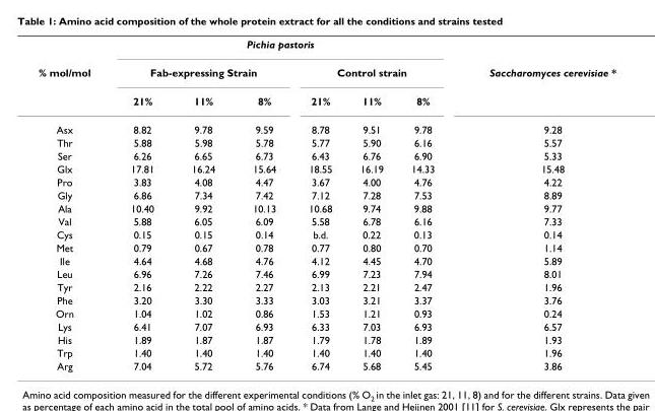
<table><thead><tr><td rowspan="3">% mol/mol</td><td colspan="6">Pichia pastoris</td><td rowspan="3">Saccharomyces cerevisiae *</td></tr><tr><td colspan="3">Fab-expressing Strain</td><td colspan="3">Control strain</td></tr><tr><td>21%</td><td>11%</td><td>8%</td><td>21%</td><td>11%</td><td>8%</td></tr></thead><tbody><tr><td>Asx</td><td>8.82</td><td>9.78</td><td>9.59</td><td>8.78</td><td>9.51</td><td>9.78</td><td>9.28</td></tr><tr><td>Thr</td><td>5.88</td><td>5.98</td><td>5.78</td><td>5.77</td><td>5.90</td><td>6.16</td><td>5.57</td></tr><tr><td>Ser</td><td>6.26</td><td>6.65</td><td>6.73</td><td>6.43</td><td>6.76</td><td>6.90</td><td>5.33</td></tr><tr><td>Glx</td><td>17.81</td><td>16.24</td><td>15.64</td><td>18.55</td><td>16.19</td><td>14.33</td><td>15.48</td></tr><tr><td>Pro</td><td>3.83</td><td>4.08</td><td>4.47</td><td>3.67</td><td>4.00</td><td>4.76</td><td>4.22</td></tr><tr><td>Gly</td><td>6.86</td><td>7.34</td><td>7.42</td><td>7.12</td><td>7.28</td><td>7.53</td><td>8.89</td></tr><tr><td>Ala</td><td>10.40</td><td>9.92</td><td>10.13</td><td>10.68</td><td>9.74</td><td>9.88</td><td>9.77</td></tr><tr><td>Val</td><td>5.88</td><td>6.05</td><td>6.09</td><td>5.58</td><td>6.78</td><td>6.16</td><td>7.33</td></tr><tr><td>Cys</td><td>0.15</td><td>0.15</td><td>0.14</td><td>b.d.</td><td>0.22</td><td>0.13</td><td>0.14</td></tr><tr><td>Met</td><td>0.79</td><td>0.67</td><td>0.78</td><td>0.77</td><td>0.80</td><td>0.70</td><td>1.14</td></tr><tr><td>Ile</td><td>4.64</td><td>4.68</td><td>4.76</td><td>4.12</td><td>4.45</td><td>4.70</td><td>5.89</td></tr><tr><td>Leu</td><td>6.96</td><td>7.26</td><td>7.46</td><td>6.99</td><td>7.23</td><td>7.94</td><td>8.01</td></tr><tr><td>Tyr</td><td>2.16</td><td>2.22</td><td>2.27</td><td>2.13</td><td>2.21</td><td>2.47</td><td>1.96</td></tr><tr><td>Phe</td><td>3.20</td><td>3.30</td><td>3.33</td><td>3.03</td><td>3.21</td><td>3.37</td><td>3.76</td></tr><tr><td>Orn</td><td>1.04</td><td>1.02</td><td>0.86</td><td>1.53</td><td>1.21</td><td>0.93</td><td>0.24</td></tr><tr><td>Lys</td><td>6.41</td><td>7.07</td><td>6.93</td><td>6.33</td><td>7.03</td><td>6.93</td><td>6.57</td></tr><tr><td>His</td><td>1.89</td><td>1.87</td><td>1.87</td><td>1.79</td><td>1.78</td><td>1.89</td><td>1.93</td></tr><tr><td>Trp</td><td>1.40</td><td>1.40</td><td>1.40</td><td>1.40</td><td>1.40</td><td>1.40</td><td>1.96</td></tr><tr><td>Arg</td><td>7.04</td><td>5.72</td><td>5.76</td><td>6.74</td><td>5.68</td><td>5.45</td><td>3.86</td></tr></tbody></table>